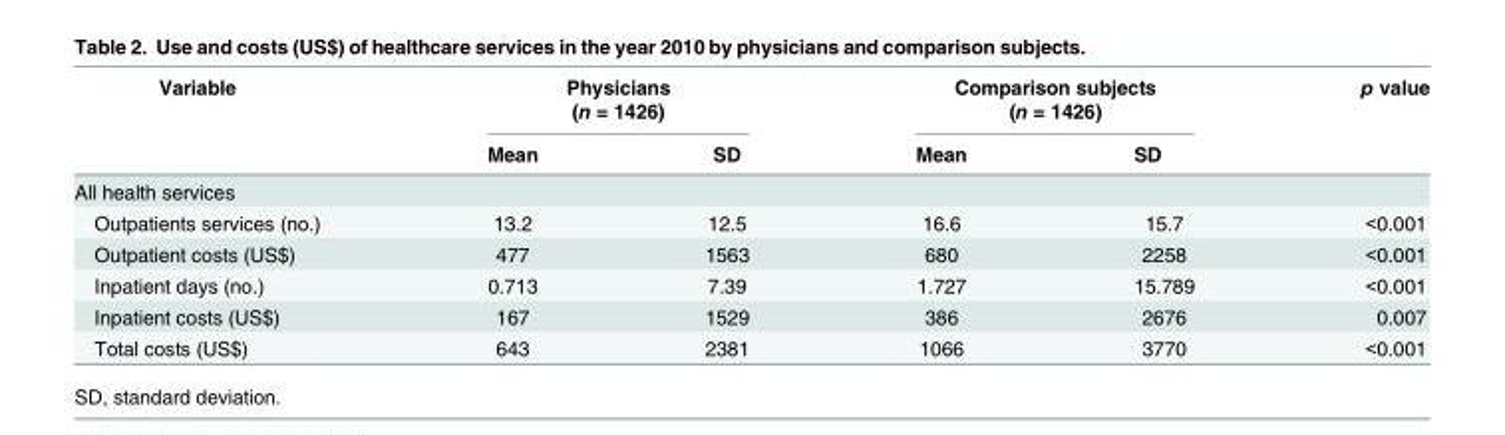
<table><thead><tr><td rowspan="2">Variable</td><td colspan="2">Physicians (n = 1426)</td><td colspan="2">Comparison subjects (n = 1426)</td><td rowspan="2">p value</td></tr><tr><td>Mean</td><td>SD</td><td>Mean</td><td>SD</td></tr></thead><tbody><tr><td colspan="6">All health services</td></tr><tr><td>Outpatients services (no.)</td><td>13.2</td><td>12.5</td><td>16.6</td><td>15.7</td><td>&lt;0.001</td></tr><tr><td>Outpatient costs (US$)</td><td>477</td><td>1563</td><td>680</td><td>2258</td><td>&lt;0.001</td></tr><tr><td>Inpatient days (no.)</td><td>0.713</td><td>7.39</td><td>1.727</td><td>15.789</td><td>&lt;0.001</td></tr><tr><td>Inpatient costs (US$)</td><td>167</td><td>1529</td><td>386</td><td>2676</td><td>0.007</td></tr><tr><td>Total costs (US$)</td><td>643</td><td>2381</td><td>1066</td><td>3770</td><td>&lt;0.001</td></tr></tbody></table>